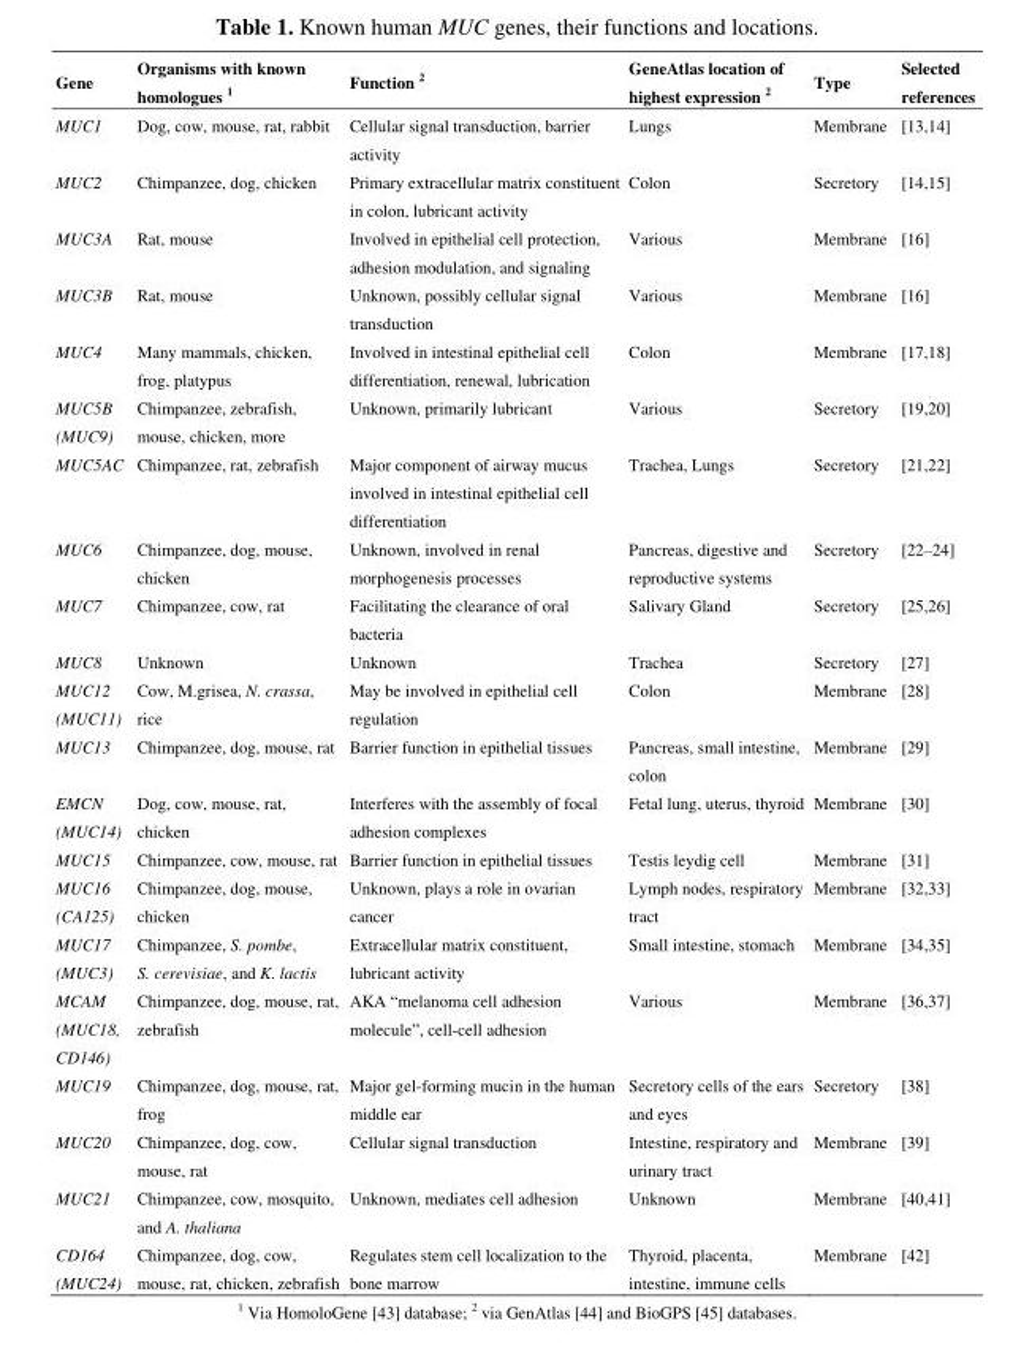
<table><thead><tr><td>Gene</td><td>Organisms with known homologues <sup>1</sup></td><td>Function <sup>2</sup></td><td>GeneAtlas location of highest expression <sup>2</sup></td><td>Type</td><td>Selected references</td></tr></thead><tbody><tr><td>MUC1</td><td>Dog, cow, mouse, rat, rabbit</td><td>Cellular signal transduction, barrier activity</td><td>Lungs</td><td>Membrane</td><td>[13,14]</td></tr><tr><td>MUC2</td><td>Chimpanzee, dog, chicken</td><td>Primary extracellular matrix constituent in colon, lubricant activity</td><td>Colon</td><td>Secretory</td><td>[14,15]</td></tr><tr><td>MUC3A</td><td>Rat, mouse</td><td>Involved in epithelial cell protection, adhesion modulation, and signaling</td><td>Various</td><td>Membrane</td><td>[16]</td></tr><tr><td>MUC3B</td><td>Rat, mouse</td><td>Unknown, possibly cellular signal transduction</td><td>Various</td><td>Membrane</td><td>[16]</td></tr><tr><td>MUC4</td><td>Many mammals, chicken, frog, platypus</td><td>Involved in intestinal epithelial cell differentiation, renewal, lubrication</td><td>Colon</td><td>Membrane</td><td>[17,18]</td></tr><tr><td>MUC5B (MUC9)</td><td>Chimpanzee, zebrafish, mouse, chicken, more</td><td>Unknown, primarily lubricant</td><td>Various</td><td>Secretory</td><td>[19,20]</td></tr><tr><td>MUC5AC</td><td>Chimpanzee, rat, zebrafish</td><td>Major component of airway mucus involved in intestinal epithelial cell differentiation</td><td>Trachea, Lungs</td><td>Secretory</td><td>[21,22]</td></tr><tr><td>MUC6</td><td>Chimpanzee, dog, mouse, chicken</td><td>Unknown, involved in renal morphogenesis processes</td><td>Pancreas, digestive and reproductive systems</td><td>Secretory</td><td>[22–24]</td></tr><tr><td>MUC7</td><td>Chimpanzee, cow, rat</td><td>Facilitating the clearance of oral bacteria</td><td>Salivary Gland</td><td>Secretory</td><td>[25,26]</td></tr><tr><td>MUC8</td><td>Unknown</td><td>Unknown</td><td>Trachea</td><td>Secretory</td><td>[27]</td></tr><tr><td>MUC12 (MUC11)</td><td>Cow, M.grisea, N. crassa, rice</td><td>May be involved in epithelial cell regulation</td><td>Colon</td><td>Membrane</td><td>[28]</td></tr><tr><td>MUC13</td><td>Chimpanzee, dog, mouse, rat</td><td>Barrier function in epithelial tissues</td><td>Pancreas, small intestine, colon</td><td>Membrane</td><td>[29]</td></tr><tr><td>EMCN (MUC14)</td><td>Dog, cow, mouse, rat, chicken</td><td>Interferes with the assembly of focal adhesion complexes</td><td>Fetal lung, uterus, thyroid</td><td>Membrane</td><td>[30]</td></tr><tr><td>MUC15</td><td>Chimpanzee, cow, mouse, rat</td><td>Barrier function in epithelial tissues</td><td>Testis leydig cell</td><td>Membrane</td><td>[31]</td></tr><tr><td>MUC16 (CA125)</td><td>Chimpanzee, dog, mouse, chicken</td><td>Unknown, plays a role in ovarian cancer</td><td>Lymph nodes, respiratory tract</td><td>Membrane</td><td>[32,33]</td></tr><tr><td>MUC17 (MUC3)</td><td>Chimpanzee, S. pombe, S. cerevisiae, and K. lactis</td><td>Extracellular matrix constituent, lubricant activity</td><td>Small intestine, stomach</td><td>Membrane</td><td>[34,35]</td></tr><tr><td>MCAM (MUC18, CD146)</td><td>Chimpanzee, dog, mouse, rat, zebrafish</td><td>AKA ―melanoma cell adhesion molecule‖, cell-cell adhesion</td><td>Various</td><td>Membrane</td><td>[36,37]</td></tr><tr><td>MUC19</td><td>Chimpanzee, dog, mouse, rat, frog</td><td>Major gel-forming mucin in the human middle ear</td><td>Secretory cells of the ears and eyes</td><td>Secretory</td><td>[38]</td></tr><tr><td>MUC20</td><td>Chimpanzee, dog, cow, mouse, rat</td><td>Cellular signal transduction</td><td>Intestine, respiratory and urinary tract</td><td>Membrane</td><td>[39]</td></tr><tr><td>MUC21</td><td>Chimpanzee, cow, mosquito, and A. thaliana</td><td>Unknown, mediates cell adhesion</td><td>Unknown</td><td>Membrane</td><td>[40,41]</td></tr><tr><td>CD164 (MUC24)</td><td>Chimpanzee, dog, cow, mouse, rat, chicken, zebrafish</td><td>Regulates stem cell localization to the bone marrow</td><td>Thyroid, placenta, intestine, immune cells</td><td>Membrane</td><td>[42]</td></tr></tbody></table>